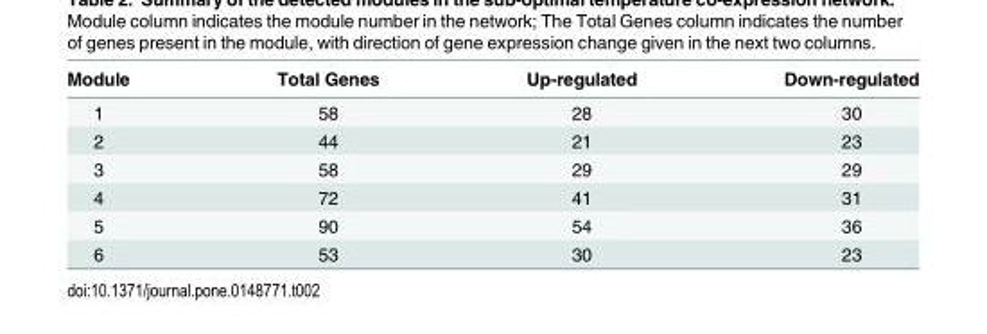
<table><thead><tr><td>Module</td><td>Total Genes</td><td>Up-regulated</td><td>Down-regulated</td></tr></thead><tbody><tr><td>1</td><td>58</td><td>28</td><td>30</td></tr><tr><td>2</td><td>44</td><td>21</td><td>23</td></tr><tr><td>3</td><td>58</td><td>29</td><td>29</td></tr><tr><td>4</td><td>72</td><td>41</td><td>31</td></tr><tr><td>5</td><td>90</td><td>54</td><td>36</td></tr><tr><td>6</td><td>53</td><td>30</td><td>23</td></tr></tbody></table>